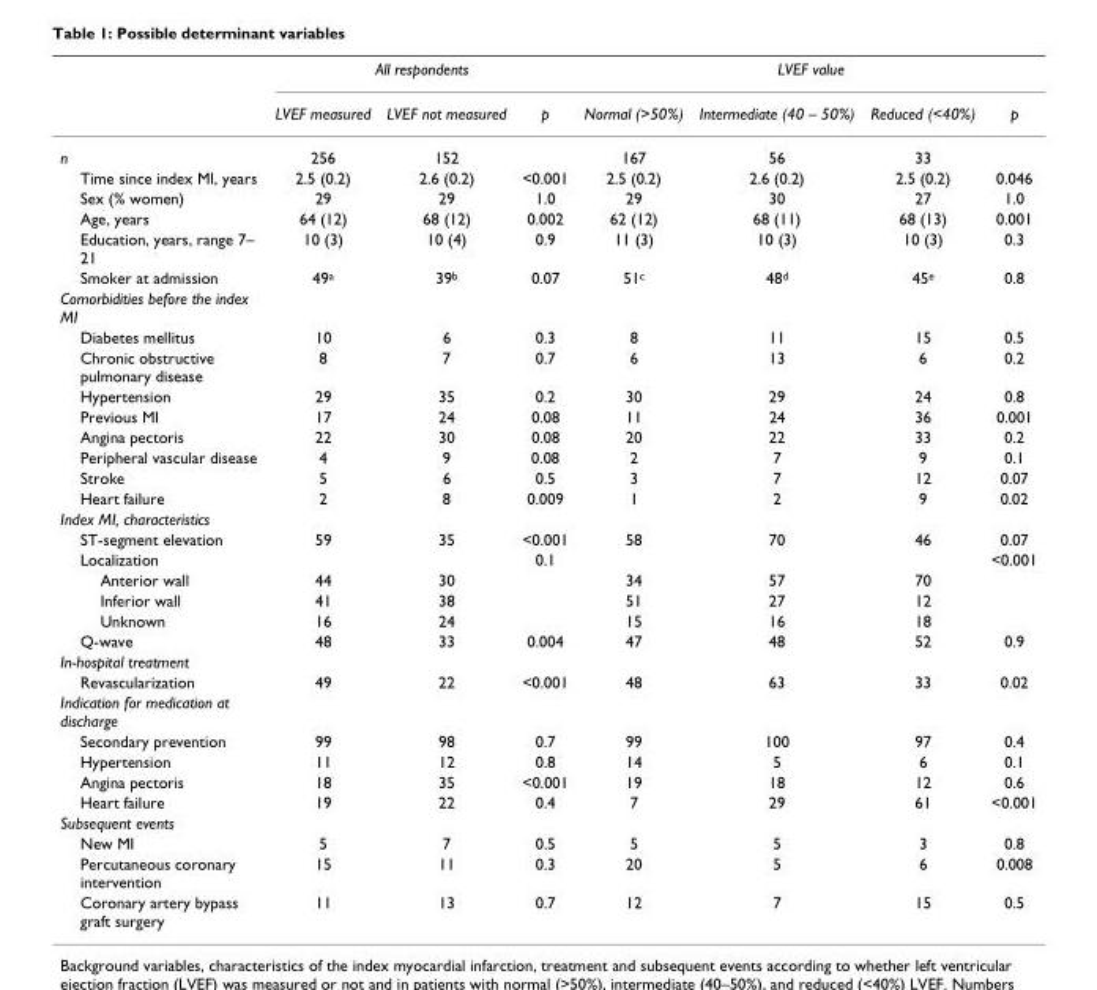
<table><thead><tr><td rowspan="2"></td><td colspan="3">All respondents</td><td colspan="4">LVEF value</td></tr><tr><td>LVEF measured</td><td>LVEF not measured</td><td>p</td><td>Normal (&gt;50%)</td><td>Intermediate (40 – 50%)</td><td>Reduced (&lt;40%)</td><td>p</td></tr></thead><tbody><tr><td>n</td><td>256</td><td>152</td><td></td><td>167</td><td>56</td><td>33</td><td></td></tr><tr><td>Time since index MI, years</td><td>2.5 (0.2)</td><td>2.6 (0.2)</td><td>&lt;0.001</td><td>2.5 (0.2)</td><td>2.6 (0.2)</td><td>2.5 (0.2)</td><td>0.046</td></tr><tr><td>Sex (% women)</td><td>29</td><td>29</td><td>1.0</td><td>29</td><td>30</td><td>27</td><td>1.0</td></tr><tr><td>Age, years</td><td>64 (12)</td><td>68 (12)</td><td>0.002</td><td>62 (12)</td><td>68 (11)</td><td>68 (13)</td><td>0.001</td></tr><tr><td>Education, years, range 7– 21</td><td>10 (3)</td><td>10 (4)</td><td>0.9</td><td>11 (3)</td><td>10 (3)</td><td>10 (3)</td><td>0.3</td></tr><tr><td>Smoker at admission</td><td>49<sup>a</sup></td><td>39<sup>b</sup></td><td>0.07</td><td>51<sup>c</sup></td><td>48<sup>d</sup></td><td>45<sup>e</sup></td><td>0.8</td></tr><tr><td colspan="8">Comorbidities before the index MI</td></tr><tr><td>Diabetes mellitus</td><td>10</td><td>6</td><td>0.3</td><td>8</td><td>11</td><td>15</td><td>0.5</td></tr><tr><td>Chronic obstructive pulmonary disease</td><td>8</td><td>7</td><td>0.7</td><td>6</td><td>13</td><td>6</td><td>0.2</td></tr><tr><td>Hypertension</td><td>29</td><td>35</td><td>0.2</td><td>30</td><td>29</td><td>24</td><td>0.8</td></tr><tr><td>Previous MI</td><td>17</td><td>24</td><td>0.08</td><td>11</td><td>24</td><td>36</td><td>0.001</td></tr><tr><td>Angina pectoris</td><td>22</td><td>30</td><td>0.08</td><td>20</td><td>22</td><td>33</td><td>0.2</td></tr><tr><td>Peripheral vascular disease</td><td>4</td><td>9</td><td>0.08</td><td>2</td><td>7</td><td>9</td><td>0.1</td></tr><tr><td>Stroke</td><td>5</td><td>6</td><td>0.5</td><td>3</td><td>7</td><td>12</td><td>0.07</td></tr><tr><td>Heart failure</td><td>2</td><td>8</td><td>0.009</td><td>1</td><td>2</td><td>9</td><td>0.02</td></tr><tr><td colspan="8">Index MI, characteristics</td></tr><tr><td>ST-segment elevation</td><td>59</td><td>35</td><td>&lt;0.001</td><td>58</td><td>70</td><td>46</td><td>0.07</td></tr><tr><td>Localization</td><td></td><td></td><td>0.1</td><td></td><td></td><td></td><td>&lt;0.001</td></tr><tr><td>Anterior wall</td><td>44</td><td>30</td><td></td><td>34</td><td>57</td><td>70</td><td></td></tr><tr><td>Inferior wall</td><td>41</td><td>38</td><td></td><td>51</td><td>27</td><td>12</td><td></td></tr><tr><td>Unknown</td><td>16</td><td>24</td><td></td><td>15</td><td>16</td><td>18</td><td></td></tr><tr><td>Q-wave</td><td>48</td><td>33</td><td>0.004</td><td>47</td><td>48</td><td>52</td><td>0.9</td></tr><tr><td colspan="8">In-hospital treatment</td></tr><tr><td>Revascularization</td><td>49</td><td>22</td><td>&lt;0.001</td><td>48</td><td>63</td><td>33</td><td>0.02</td></tr><tr><td colspan="8">Indication for medication at discharge</td></tr><tr><td>Secondary prevention</td><td>99</td><td>98</td><td>0.7</td><td>99</td><td>100</td><td>97</td><td>0.4</td></tr><tr><td>Hypertension</td><td>11</td><td>12</td><td>0.8</td><td>14</td><td>5</td><td>6</td><td>0.1</td></tr><tr><td>Angina pectoris</td><td>18</td><td>35</td><td>&lt;0.001</td><td>19</td><td>18</td><td>12</td><td>0.6</td></tr><tr><td>Heart failure</td><td>19</td><td>22</td><td>0.4</td><td>7</td><td>29</td><td>61</td><td>&lt;0.001</td></tr><tr><td colspan="8">Subsequent events</td></tr><tr><td>New MI</td><td>5</td><td>7</td><td>0.5</td><td>5</td><td>5</td><td>3</td><td>0.8</td></tr><tr><td>Percutaneous coronary intervention</td><td>15</td><td>11</td><td>0.3</td><td>20</td><td>5</td><td>6</td><td>0.008</td></tr><tr><td>Coronary artery bypass graft surgery</td><td>11</td><td>13</td><td>0.7</td><td>12</td><td>7</td><td>15</td><td>0.5</td></tr></tbody></table>